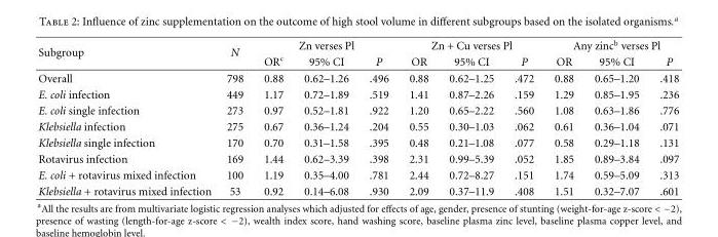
<table><thead><tr><td rowspan="2">Subgroup</td><td rowspan="2">N</td><td colspan="3">Zn verses Pl</td><td colspan="3">Zn + Cu verses Pl</td><td colspan="3">Any zinc<sup>b</sup> verses Pl</td></tr><tr><td>OR<sup>c</sup></td><td>95% CI</td><td>P</td><td>OR</td><td>95% CI</td><td>P</td><td>OR</td><td>95% CI</td><td>P</td></tr></thead><tbody><tr><td>Overall</td><td>798</td><td>0.88</td><td>0.62–1.26</td><td>.496</td><td>0.88</td><td>0.62–1.25</td><td>.472</td><td>0.88</td><td>0.65–1.20</td><td>.418</td></tr><tr><td>E. coli infection</td><td>449</td><td>1.17</td><td>0.72–1.89</td><td>.519</td><td>1.41</td><td>0.87–2.26</td><td>.159</td><td>1.29</td><td>0.85–1.95</td><td>.236</td></tr><tr><td>E. coli single infection</td><td>273</td><td>0.97</td><td>0.52–1.81</td><td>.922</td><td>1.20</td><td>0.65–2.22</td><td>.560</td><td>1.08</td><td>0.63–1.86</td><td>.776</td></tr><tr><td>Klebsiella infection</td><td>275</td><td>0.67</td><td>0.36–1.24</td><td>.204</td><td>0.55</td><td>0.30–1.03</td><td>.062</td><td>0.61</td><td>0.36–1.04</td><td>.071</td></tr><tr><td>Klebsiella single infection</td><td>170</td><td>0.70</td><td>0.31–1.58</td><td>.395</td><td>0.48</td><td>0.21–1.08</td><td>.077</td><td>0.58</td><td>0.29–1.18</td><td>.131</td></tr><tr><td>Rotavirus infection</td><td>169</td><td>1.44</td><td>0.62–3.39</td><td>.398</td><td>2.31</td><td>0.99–5.39</td><td>.052</td><td>1.85</td><td>0.89–3.84</td><td>.097</td></tr><tr><td>E. coli + rotavirus mixed infection</td><td>100</td><td>1.19</td><td>0.35–4.00</td><td>.781</td><td>2.44</td><td>0.72–8.27</td><td>.151</td><td>1.74</td><td>0.59–5.09</td><td>.313</td></tr><tr><td>Klebsiella + rotavirus mixed infection</td><td>53</td><td>0.92</td><td>0.14–6.08</td><td>.930</td><td>2.09</td><td>0.37–11.9</td><td>.408</td><td>1.51</td><td>0.32–7.07</td><td>.601</td></tr></tbody></table>